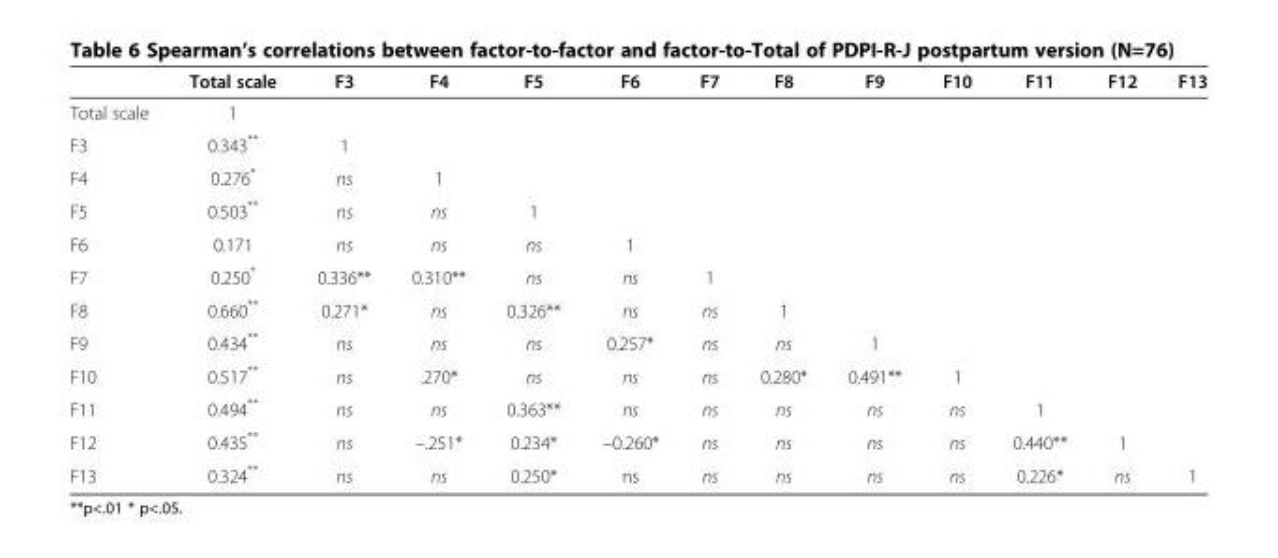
<table><thead><tr><td></td><td>Total scale</td><td>F3</td><td>F4</td><td>F5</td><td>F6</td><td>F7</td><td>F8</td><td>F9</td><td>F10</td><td>F11</td><td>F12</td><td>F13</td></tr></thead><tbody><tr><td>Total scale</td><td>1</td><td></td><td></td><td></td><td></td><td></td><td></td><td></td><td></td><td></td><td></td><td></td></tr><tr><td>F3</td><td>0.343**</td><td>1</td><td></td><td></td><td></td><td></td><td></td><td></td><td></td><td></td><td></td><td></td></tr><tr><td>F4</td><td>0.276*</td><td>ns</td><td>1</td><td></td><td></td><td></td><td></td><td></td><td></td><td></td><td></td><td></td></tr><tr><td>F5</td><td>0.503**</td><td>ns</td><td>ns</td><td>1</td><td></td><td></td><td></td><td></td><td></td><td></td><td></td><td></td></tr><tr><td>F6</td><td>0.171</td><td>ns</td><td>ns</td><td>ns</td><td>1</td><td></td><td></td><td></td><td></td><td></td><td></td><td></td></tr><tr><td>F7</td><td>0.250*</td><td>0.336**</td><td>0.310**</td><td>ns</td><td>ns</td><td>1</td><td></td><td></td><td></td><td></td><td></td><td></td></tr><tr><td>F8</td><td>0.660**</td><td>0.271*</td><td>ns</td><td>0.326**</td><td>ns</td><td>ns</td><td>1</td><td></td><td></td><td></td><td></td><td></td></tr><tr><td>F9</td><td>0.434**</td><td>ns</td><td>ns</td><td>ns</td><td>0.257*</td><td>ns</td><td>ns</td><td>1</td><td></td><td></td><td></td><td></td></tr><tr><td>F10</td><td>0.517**</td><td>ns</td><td>.270*</td><td>ns</td><td>ns</td><td>ns</td><td>0.280*</td><td>0.491**</td><td>1</td><td></td><td></td><td></td></tr><tr><td>F11</td><td>0.494**</td><td>ns</td><td>ns</td><td>0.363**</td><td>ns</td><td>ns</td><td>ns</td><td>ns</td><td>ns</td><td>1</td><td></td><td></td></tr><tr><td>F12</td><td>0.435**</td><td>ns</td><td>–.251*</td><td>0.234*</td><td>−0.260*</td><td>ns</td><td>ns</td><td>ns</td><td>ns</td><td>0.440**</td><td>1</td><td></td></tr><tr><td>F13</td><td>0.324**</td><td>ns</td><td>ns</td><td>0.250*</td><td>ns</td><td>ns</td><td>ns</td><td>ns</td><td>ns</td><td>0.226*</td><td>ns</td><td>1</td></tr></tbody></table>